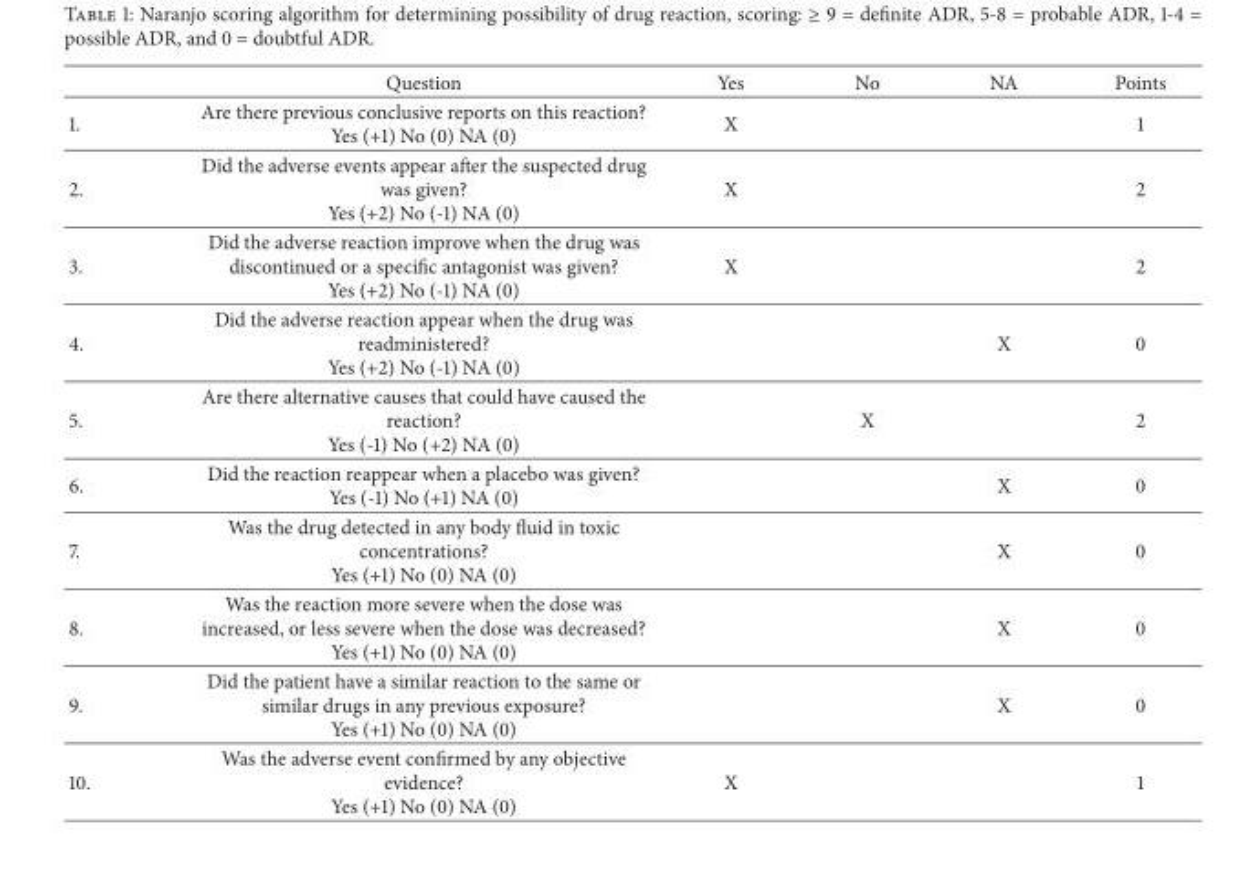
<table><thead><tr><td></td><td>Question</td><td>Yes</td><td>No</td><td>NA</td><td>Points</td></tr></thead><tbody><tr><td>1.</td><td>Are there previous conclusive reports on this reaction? Yes (+1) No (0) NA (0)</td><td>X</td><td></td><td></td><td>1</td></tr><tr><td>2.</td><td>Did the adverse events appear after the suspected drug was given? Yes (+2) No (-1) NA (0)</td><td>X</td><td></td><td></td><td>2</td></tr><tr><td>3.</td><td>Did the adverse reaction improve when the drug was discontinued or a specific antagonist was given? Yes (+2) No (-1) NA (0)</td><td>X</td><td></td><td></td><td>2</td></tr><tr><td>4.</td><td>Did the adverse reaction appear when the drug was readministered? Yes (+2) No (-1) NA (0)</td><td></td><td></td><td>X</td><td>0</td></tr><tr><td>5.</td><td>Are there alternative causes that could have caused the reaction? Yes (-1) No (+2) NA (0)</td><td></td><td>X</td><td></td><td>2</td></tr><tr><td>6.</td><td>Did the reaction reappear when a placebo was given? Yes (-1) No (+1) NA (0)</td><td></td><td></td><td>X</td><td>0</td></tr><tr><td>7.</td><td>Was the drug detected in any body fluid in toxic concentrations? Yes (+1) No (0) NA (0)</td><td></td><td></td><td>X</td><td>0</td></tr><tr><td>8.</td><td>Was the reaction more severe when the dose was increased, or less severe when the dose was decreased? Yes (+1) No (0) NA (0)</td><td></td><td></td><td>X</td><td>0</td></tr><tr><td>9.</td><td>Did the patient have a similar reaction to the same or similar drugs in any previous exposure? Yes (+1) No (0) NA (0)</td><td></td><td></td><td>X</td><td>0</td></tr><tr><td>10.</td><td>Was the adverse event confirmed by any objective evidence? Yes (+1) No (0) NA (0)</td><td>X</td><td></td><td></td><td>1</td></tr></tbody></table>